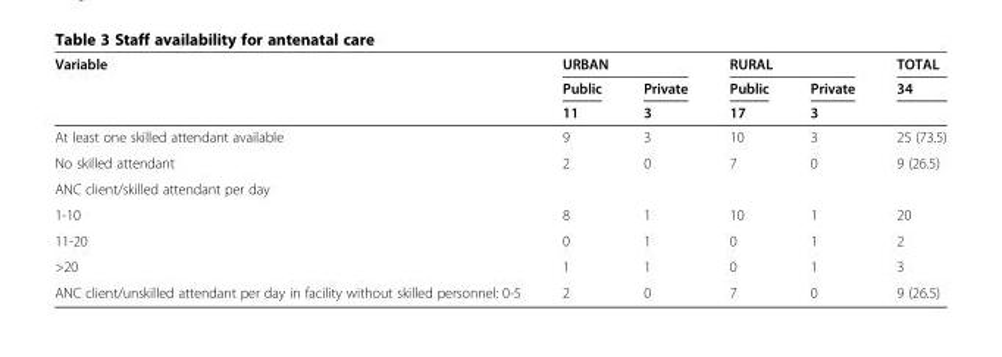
<table><thead><tr><td rowspan="3">Variable</td><td colspan="2">URBAN</td><td colspan="2">RURAL</td><td rowspan="3">TOTAL 34</td></tr><tr><td rowspan="2">Public 11</td><td rowspan="2">Private 3</td><td rowspan="2">Public 17</td><td rowspan="2">Private 3</td></tr><tr></tr></thead><tbody><tr><td>At least one skilled attendant available</td><td>9</td><td>3</td><td>10</td><td>3</td><td>25 (73.5)</td></tr><tr><td>No skilled attendant</td><td>2</td><td>0</td><td>7</td><td>0</td><td>9 (26.5)</td></tr><tr><td colspan="6">ANC client/skilled attendant per day</td></tr><tr><td>1-10</td><td>8</td><td>1</td><td>10</td><td>1</td><td>20</td></tr><tr><td>11-20</td><td>0</td><td>1</td><td>0</td><td>1</td><td>2</td></tr><tr><td>&gt;20</td><td>1</td><td>1</td><td>0</td><td>1</td><td>3</td></tr><tr><td>ANC client/unskilled attendant per day in facility without skilled personnel: 0-5</td><td>2</td><td>0</td><td>7</td><td>0</td><td>9 (26.5)</td></tr></tbody></table>